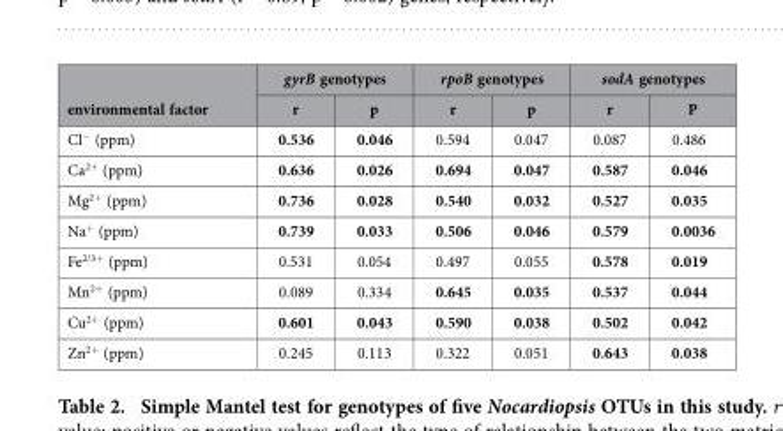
<table><thead><tr><td rowspan="2">environmental factor</td><td colspan="2">gyrB genotypes</td><td colspan="2">rpoB genotypes</td><td colspan="2">sodA genotypes</td></tr><tr><td>r</td><td>p</td><td>r</td><td>p</td><td>r</td><td>P</td></tr></thead><tbody><tr><td>Cl<sup>−</sup> (ppm)</td><td>0.536</td><td>0.046</td><td>0.594</td><td>0.047</td><td>0.087</td><td>0.486</td></tr><tr><td>Ca<sup>2+</sup> (ppm)</td><td>0.636</td><td>0.026</td><td>0.694</td><td>0.047</td><td>0.587</td><td>0.046</td></tr><tr><td>Mg<sup>2+</sup> (ppm)</td><td>0.736</td><td>0.028</td><td>0.540</td><td>0.032</td><td>0.527</td><td>0.035</td></tr><tr><td>Na<sup>+</sup> (ppm)</td><td>0.739</td><td>0.033</td><td>0.506</td><td>0.046</td><td>0.579</td><td>0.0036</td></tr><tr><td>Fe<sup>2/3+</sup> (ppm)</td><td>0.531</td><td>0.054</td><td>0.497</td><td>0.055</td><td>0.578</td><td>0.019</td></tr><tr><td>Mn<sup>2+</sup> (ppm)</td><td>0.089</td><td>0.334</td><td>0.645</td><td>0.035</td><td>0.537</td><td>0.044</td></tr><tr><td>Cu<sup>2+</sup> (ppm)</td><td>0.601</td><td>0.043</td><td>0.590</td><td>0.038</td><td>0.502</td><td>0.042</td></tr><tr><td>Zn<sup>2+</sup> (ppm)</td><td>0.245</td><td>0.113</td><td>0.322</td><td>0.051</td><td>0.643</td><td>0.038</td></tr></tbody></table>